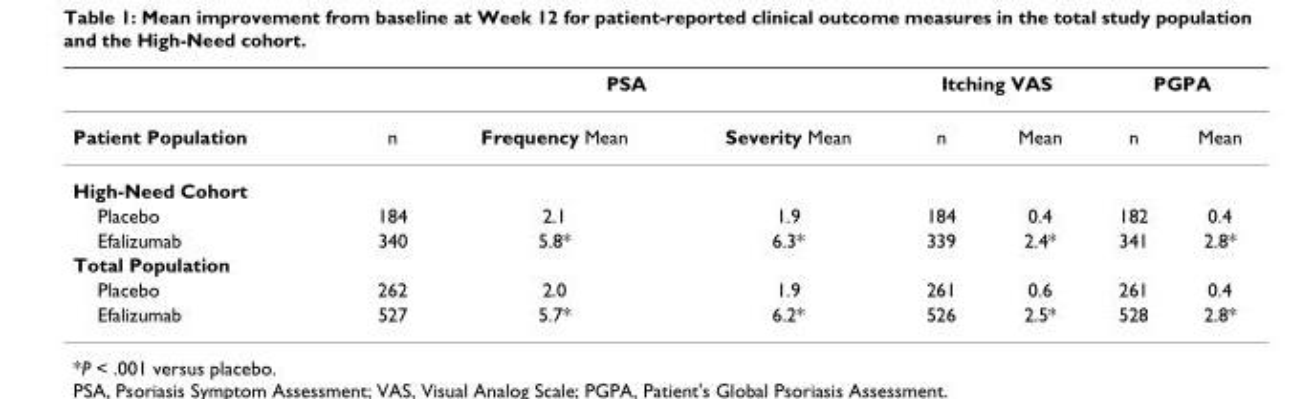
<table><thead><tr><td rowspan="2">Patient Population</td><td colspan="3">PSA</td><td colspan="2">Itching VAS</td><td colspan="2">PGPA</td></tr><tr><td>n</td><td>Frequency Mean</td><td>Severity Mean</td><td>n</td><td>Mean</td><td>n</td><td>Mean</td></tr></thead><tbody><tr><td colspan="8">High-Need Cohort</td></tr><tr><td>Placebo</td><td>184</td><td>2.1</td><td>1.9</td><td>184</td><td>0.4</td><td>182</td><td>0.4</td></tr><tr><td>Efalizumab</td><td>340</td><td>5.8*</td><td>6.3*</td><td>339</td><td>2.4*</td><td>341</td><td>2.8*</td></tr><tr><td colspan="8">Total Population</td></tr><tr><td>Placebo</td><td>262</td><td>2.0</td><td>1.9</td><td>261</td><td>0.6</td><td>261</td><td>0.4</td></tr><tr><td>Efalizumab</td><td>527</td><td>5.7*</td><td>6.2*</td><td>526</td><td>2.5*</td><td>528</td><td>2.8*</td></tr></tbody></table>